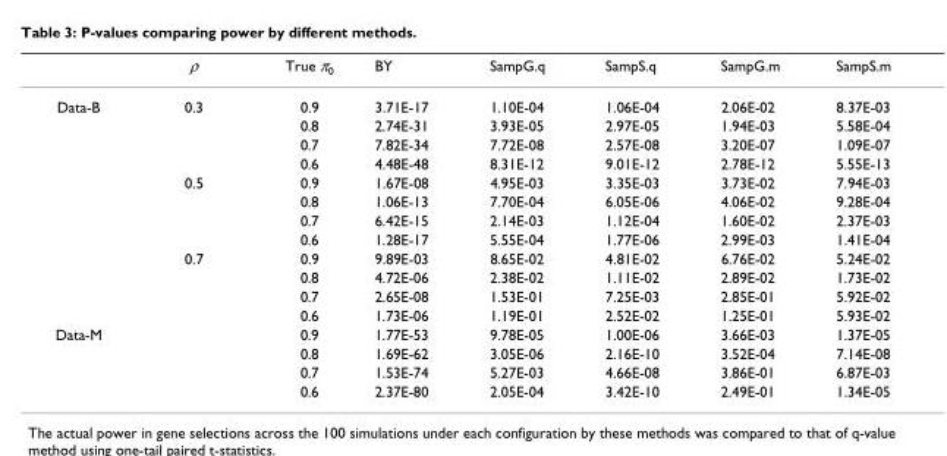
<table><thead><tr><td></td><td>ρ</td><td>True π<sub>0</sub></td><td>BY</td><td>SampG.q</td><td>SampS.q</td><td>SampG.m</td><td>SampS.m</td></tr></thead><tbody><tr><td rowspan="12">Data-B</td><td>0.3</td><td>0.9</td><td>3.71E-17</td><td>1.10E-04</td><td>1.06E-04</td><td>2.06E-02</td><td>8.37E-03</td></tr><tr><td></td><td>0.8</td><td>2.74E-31</td><td>3.93E-05</td><td>2.97E-05</td><td>1.94E-03</td><td>5.58E-04</td></tr><tr><td></td><td>0.7</td><td>7.82E-34</td><td>7.72E-08</td><td>2.57E-08</td><td>3.20E-07</td><td>1.09E-07</td></tr><tr><td></td><td>0.6</td><td>4.48E-48</td><td>8.31E-12</td><td>9.01E-12</td><td>2.78E-12</td><td>5.55E-13</td></tr><tr><td>0.5</td><td>0.9</td><td>1.67E-08</td><td>4.95E-03</td><td>3.35E-03</td><td>3.73E-02</td><td>7.94E-03</td></tr><tr><td></td><td>0.8</td><td>1.06E-13</td><td>7.70E-04</td><td>6.05E-06</td><td>4.06E-02</td><td>9.28E-04</td></tr><tr><td></td><td>0.7</td><td>6.42E-15</td><td>2.14E-03</td><td>1.12E-04</td><td>1.60E-02</td><td>2.37E-03</td></tr><tr><td></td><td>0.6</td><td>1.28E-17</td><td>5.55E-04</td><td>1.77E-06</td><td>2.99E-03</td><td>1.41E-04</td></tr><tr><td>0.7</td><td>0.9</td><td>9.89E-03</td><td>8.65E-02</td><td>4.81E-02</td><td>6.76E-02</td><td>5.24E-02</td></tr><tr><td></td><td>0.8</td><td>4.72E-06</td><td>2.38E-02</td><td>1.11E-02</td><td>2.89E-02</td><td>1.73E-02</td></tr><tr><td></td><td>0.7</td><td>2.65E-08</td><td>1.53E-01</td><td>7.25E-03</td><td>2.85E-01</td><td>5.92E-02</td></tr><tr><td></td><td>0.6</td><td>1.73E-06</td><td>1.19E-01</td><td>2.52E-02</td><td>1.25E-01</td><td>5.93E-02</td></tr><tr><td rowspan="4">Data-M</td><td></td><td>0.9</td><td>1.77E-53</td><td>9.78E-05</td><td>1.00E-06</td><td>3.66E-03</td><td>1.37E-05</td></tr><tr><td></td><td>0.8</td><td>1.69E-62</td><td>3.05E-06</td><td>2.16E-10</td><td>3.52E-04</td><td>7.14E-08</td></tr><tr><td></td><td>0.7</td><td>1.53E-74</td><td>5.27E-03</td><td>4.66E-08</td><td>3.86E-01</td><td>6.87E-03</td></tr><tr><td></td><td>0.6</td><td>2.37E-80</td><td>2.05E-04</td><td>3.42E-10</td><td>2.49E-01</td><td>1.34E-05</td></tr></tbody></table>